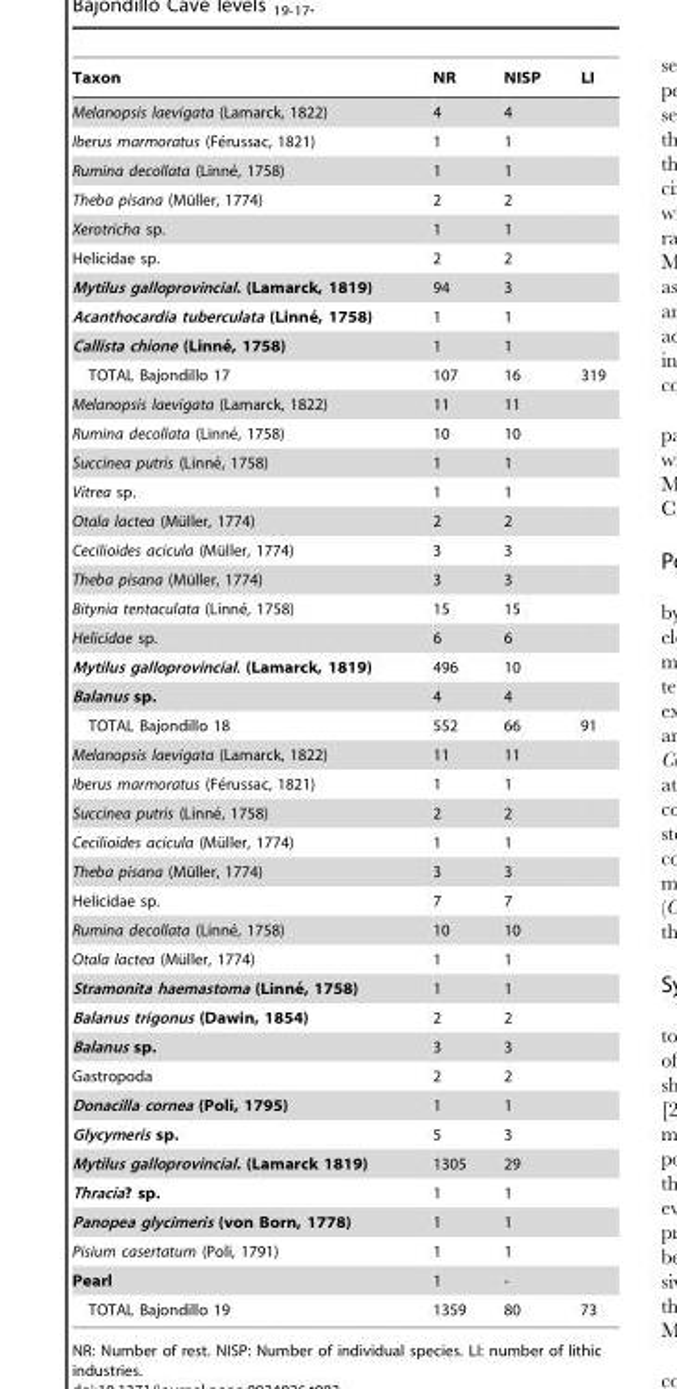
<table><thead><tr><td>Taxon</td><td>NR</td><td>NISP</td><td>LI</td></tr></thead><tbody><tr><td>Melanopsis laevigata (Lamarck, 1822)</td><td>4</td><td>4</td><td></td></tr><tr><td>Iberus marmoratus (Fe´russac, 1821)</td><td>1</td><td>1</td><td></td></tr><tr><td>Rumina decollata (Linne´, 1758)</td><td>1</td><td>1</td><td></td></tr><tr><td>Theba pisana (Mu¨ller, 1774)</td><td>2</td><td>2</td><td></td></tr><tr><td>Xerotricha sp.</td><td>1</td><td>1</td><td></td></tr><tr><td>Helicidae sp.</td><td>2</td><td>2</td><td></td></tr><tr><td>Mytilus galloprovincial. (Lamarck, 1819)</td><td>94</td><td>3</td><td></td></tr><tr><td>Acanthocardia tuberculata (Linne´, 1758)</td><td>1</td><td>1</td><td></td></tr><tr><td>Callista chione (Linne´, 1758)</td><td>1</td><td>1</td><td></td></tr><tr><td>TOTAL Bajondillo 17</td><td>107</td><td>16</td><td>319</td></tr><tr><td>Melanopsis laevigata (Lamarck, 1822)</td><td>11</td><td>11</td><td></td></tr><tr><td>Rumina decollata (Linne´, 1758)</td><td>10</td><td>10</td><td></td></tr><tr><td>Succinea putris (Linne´, 1758)</td><td>1</td><td>1</td><td></td></tr><tr><td>Vitrea sp.</td><td>1</td><td>1</td><td></td></tr><tr><td>Otala lactea (Mu¨ller, 1774)</td><td>2</td><td>2</td><td></td></tr><tr><td>Cecilioides acicula (Mu¨ller, 1774)</td><td>3</td><td>3</td><td></td></tr><tr><td>Theba pisana (Mu¨ller, 1774)</td><td>3</td><td>3</td><td></td></tr><tr><td>Bitynia tentaculata (Linne´, 1758)</td><td>15</td><td>15</td><td></td></tr><tr><td>Helicidae sp.</td><td>6</td><td>6</td><td></td></tr><tr><td>Mytilus galloprovincial. (Lamarck, 1819)</td><td>496</td><td>10</td><td></td></tr><tr><td>Balanus sp.</td><td>4</td><td>4</td><td></td></tr><tr><td>TOTAL Bajondillo 18</td><td>552</td><td>66</td><td>91</td></tr><tr><td>Melanopsis laevigata (Lamarck, 1822)</td><td>11</td><td>11</td><td></td></tr><tr><td>Iberus marmoratus (Fe´russac, 1821)</td><td>1</td><td>1</td><td></td></tr><tr><td>Succinea putris (Linne´, 1758)</td><td>2</td><td>2</td><td></td></tr><tr><td>Cecilioides acicula (Mu¨ller, 1774)</td><td>1</td><td>1</td><td></td></tr><tr><td>Theba pisana (Mu¨ller, 1774)</td><td>3</td><td>3</td><td></td></tr><tr><td>Helicidae sp.</td><td>7</td><td>7</td><td></td></tr><tr><td>Rumina decollata (Linne´, 1758)</td><td>10</td><td>10</td><td></td></tr><tr><td>Otala lactea (Mu¨ller, 1774)</td><td>1</td><td>1</td><td></td></tr><tr><td>Stramonita haemastoma (Linne´, 1758)</td><td>1</td><td>1</td><td></td></tr><tr><td>Balanus trigonus (Dawin, 1854)</td><td>2</td><td>2</td><td></td></tr><tr><td>Balanus sp.</td><td>3</td><td>3</td><td></td></tr><tr><td>Gastropoda</td><td>2</td><td>2</td><td></td></tr><tr><td>Donacilla cornea (Poli, 1795)</td><td>1</td><td>1</td><td></td></tr><tr><td>Glycymeris sp.</td><td>5</td><td>3</td><td></td></tr><tr><td>Mytilus galloprovincial. (Lamarck 1819)</td><td>1305</td><td>29</td><td></td></tr><tr><td>Thracia? sp.</td><td>1</td><td>1</td><td></td></tr><tr><td>Panopea glycimeris (von Born, 1778)</td><td>1</td><td>1</td><td></td></tr><tr><td>Pisium casertatum (Poli, 1791)</td><td>1</td><td>1</td><td></td></tr><tr><td>Pearl</td><td>1</td><td>-</td><td></td></tr><tr><td>TOTAL Bajondillo 19</td><td>1359</td><td>80</td><td>73</td></tr></tbody></table>